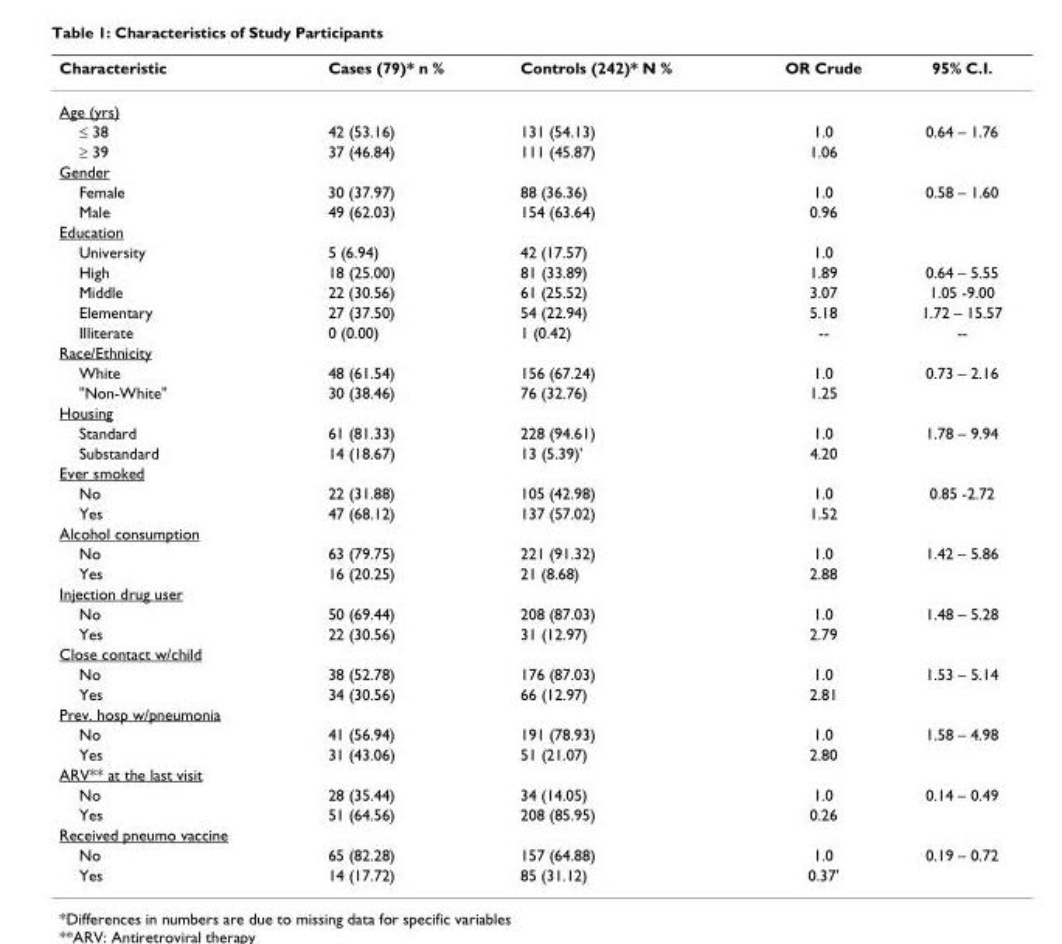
<table><thead><tr><td>Characteristic</td><td>Cases (79)* n %</td><td>Controls (242)* N %</td><td>OR Crude</td><td>95% C.I.</td></tr></thead><tbody><tr><td colspan="5">Age (yrs)</td></tr><tr><td>≤ 38</td><td>42 (53.16)</td><td>131 (54.13)</td><td>1.0</td><td>0.64 – 1.76</td></tr><tr><td>≥ 39</td><td>37 (46.84)</td><td>111 (45.87)</td><td>1.06</td><td></td></tr><tr><td colspan="5">Gender</td></tr><tr><td>Female</td><td>30 (37.97)</td><td>88 (36.36)</td><td>1.0</td><td>0.58 – 1.60</td></tr><tr><td>Male</td><td>49 (62.03)</td><td>154 (63.64)</td><td>0.96</td><td></td></tr><tr><td colspan="5">Education</td></tr><tr><td>University</td><td>5 (6.94)</td><td>42 (17.57)</td><td>1.0</td><td></td></tr><tr><td>High</td><td>18 (25.00)</td><td>81 (33.89)</td><td>1.89</td><td>0.64 – 5.55</td></tr><tr><td>Middle</td><td>22 (30.56)</td><td>61 (25.52)</td><td>3.07</td><td>1.05 -9.00</td></tr><tr><td>Elementary</td><td>27 (37.50)</td><td>54 (22.94)</td><td>5.18</td><td>1.72 – 15.57</td></tr><tr><td>Illiterate</td><td>0 (0.00)</td><td>1 (0.42)</td><td>--</td><td>--</td></tr><tr><td colspan="5">Race/Ethnicity</td></tr><tr><td>White</td><td>48 (61.54)</td><td>156 (67.24)</td><td>1.0</td><td>0.73 – 2.16</td></tr><tr><td>&quot;Non-White&quot;</td><td>30 (38.46)</td><td>76 (32.76)</td><td>1.25</td><td></td></tr><tr><td colspan="5">Housing</td></tr><tr><td>Standard</td><td>61 (81.33)</td><td>228 (94.61)</td><td>1.0</td><td>1.78 – 9.94</td></tr><tr><td>Substandard</td><td>14 (18.67)</td><td>13 (5.39)&#x27;</td><td>4.20</td><td></td></tr><tr><td colspan="5">Ever smoked</td></tr><tr><td>No</td><td>22 (31.88)</td><td>105 (42.98)</td><td>1.0</td><td>0.85 -2.72</td></tr><tr><td>Yes</td><td>47 (68.12)</td><td>137 (57.02)</td><td>1.52</td><td></td></tr><tr><td colspan="5">Alcohol consumption</td></tr><tr><td>No</td><td>63 (79.75)</td><td>221 (91.32)</td><td>1.0</td><td>1.42 – 5.86</td></tr><tr><td>Yes</td><td>16 (20.25)</td><td>21 (8.68)</td><td>2.88</td><td></td></tr><tr><td colspan="5">Injection drug user</td></tr><tr><td>No</td><td>50 (69.44)</td><td>208 (87.03)</td><td>1.0</td><td>1.48 – 5.28</td></tr><tr><td>Yes</td><td>22 (30.56)</td><td>31 (12.97)</td><td>2.79</td><td></td></tr><tr><td colspan="5">Close contact w/child</td></tr><tr><td>No</td><td>38 (52.78)</td><td>176 (87.03)</td><td>1.0</td><td>1.53 – 5.14</td></tr><tr><td>Yes</td><td>34 (30.56)</td><td>66 (12.97)</td><td>2.81</td><td></td></tr><tr><td colspan="5">Prev. hosp w/pneumonia</td></tr><tr><td>No</td><td>41 (56.94)</td><td>191 (78.93)</td><td>1.0</td><td>1.58 – 4.98</td></tr><tr><td>Yes</td><td>31 (43.06)</td><td>51 (21.07)</td><td>2.80</td><td></td></tr><tr><td colspan="5">ARV** at the last visit</td></tr><tr><td>No</td><td>28 (35.44)</td><td>34 (14.05)</td><td>1.0</td><td>0.14 – 0.49</td></tr><tr><td>Yes</td><td>51 (64.56)</td><td>208 (85.95)</td><td>0.26</td><td></td></tr><tr><td colspan="5">Received pneumo vaccine</td></tr><tr><td>No</td><td>65 (82.28)</td><td>157 (64.88)</td><td>1.0</td><td>0.19 – 0.72</td></tr><tr><td>Yes</td><td>14 (17.72)</td><td>85 (31.12)</td><td>0.37&#x27;</td><td></td></tr></tbody></table>